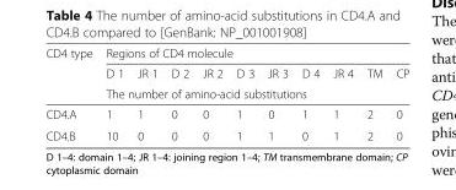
<table><thead><tr><td rowspan="3">CD4 type</td><td colspan="10">Regions of CD4 molecule</td></tr><tr><td>D 1</td><td>JR 1</td><td>D 2</td><td>JR 2</td><td>D 3</td><td>JR 3</td><td>D 4</td><td>JR 4</td><td>TM</td><td>CP</td></tr><tr><td colspan="10">The number of amino-acid substitutions</td></tr></thead><tbody><tr><td>CD4.A</td><td>1</td><td>1</td><td>0</td><td>0</td><td>1</td><td>0</td><td>1</td><td>1</td><td>2</td><td>0</td></tr><tr><td>CD4.B</td><td>10</td><td>0</td><td>0</td><td>0</td><td>1</td><td>1</td><td>0</td><td>1</td><td>2</td><td>0</td></tr></tbody></table>